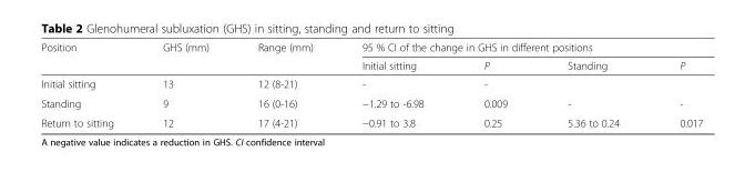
<table><thead><tr><td rowspan="2">Position</td><td rowspan="2">GHS (mm)</td><td rowspan="2">Range (mm)</td><td colspan="4">95 % CI of the change in GHS in different positions</td></tr><tr><td>Initial sitting</td><td>P</td><td>Standing</td><td>P</td></tr></thead><tbody><tr><td>Initial sitting</td><td>13</td><td>12 (8-21)</td><td>-</td><td>-</td><td></td><td></td></tr><tr><td>Standing</td><td>9</td><td>16 (0-16)</td><td>−1.29 to -6.98</td><td>0.009</td><td>-</td><td>-</td></tr><tr><td>Return to sitting</td><td>12</td><td>17 (4-21)</td><td>−0.91 to 3.8</td><td>0.25</td><td>5.36 to 0.24</td><td>0.017</td></tr></tbody></table>